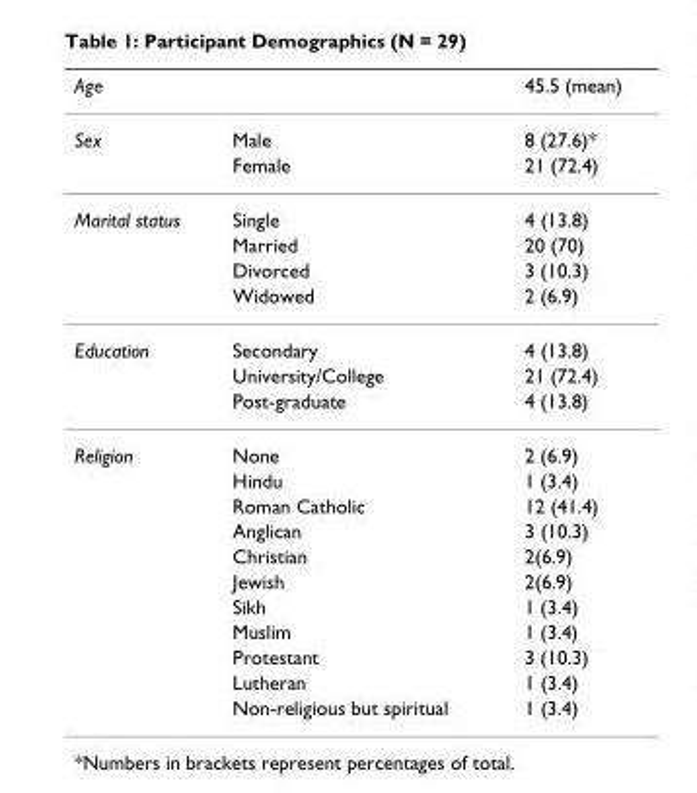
<table><thead><tr><td>Age</td><td></td><td>45.5 (mean)</td></tr></thead><tbody><tr><td rowspan="2">Sex</td><td>Male</td><td>8 (27.6)*</td></tr><tr><td>Female</td><td>21 (72.4)</td></tr><tr><td rowspan="4">Marital status</td><td>Single</td><td>4 (13.8)</td></tr><tr><td>Married</td><td>20 (70)</td></tr><tr><td>Divorced</td><td>3 (10.3)</td></tr><tr><td>Widowed</td><td>2 (6.9)</td></tr><tr><td rowspan="3">Education</td><td>Secondary</td><td>4 (13.8)</td></tr><tr><td>University/College</td><td>21 (72.4)</td></tr><tr><td>Post-graduate</td><td>4 (13.8)</td></tr><tr><td rowspan="11">Religion</td><td>None</td><td>2 (6.9)</td></tr><tr><td>Hindu</td><td>1 (3.4)</td></tr><tr><td>Roman Catholic</td><td>12 (41.4)</td></tr><tr><td>Anglican</td><td>3 (10.3)</td></tr><tr><td>Christian</td><td>2(6.9)</td></tr><tr><td>Jewish</td><td>2(6.9)</td></tr><tr><td>Sikh</td><td>1 (3.4)</td></tr><tr><td>Muslim</td><td>1 (3.4)</td></tr><tr><td>Protestant</td><td>3 (10.3)</td></tr><tr><td>Lutheran</td><td>1 (3.4)</td></tr><tr><td>Non-religious but spiritual</td><td>1 (3.4)</td></tr></tbody></table>